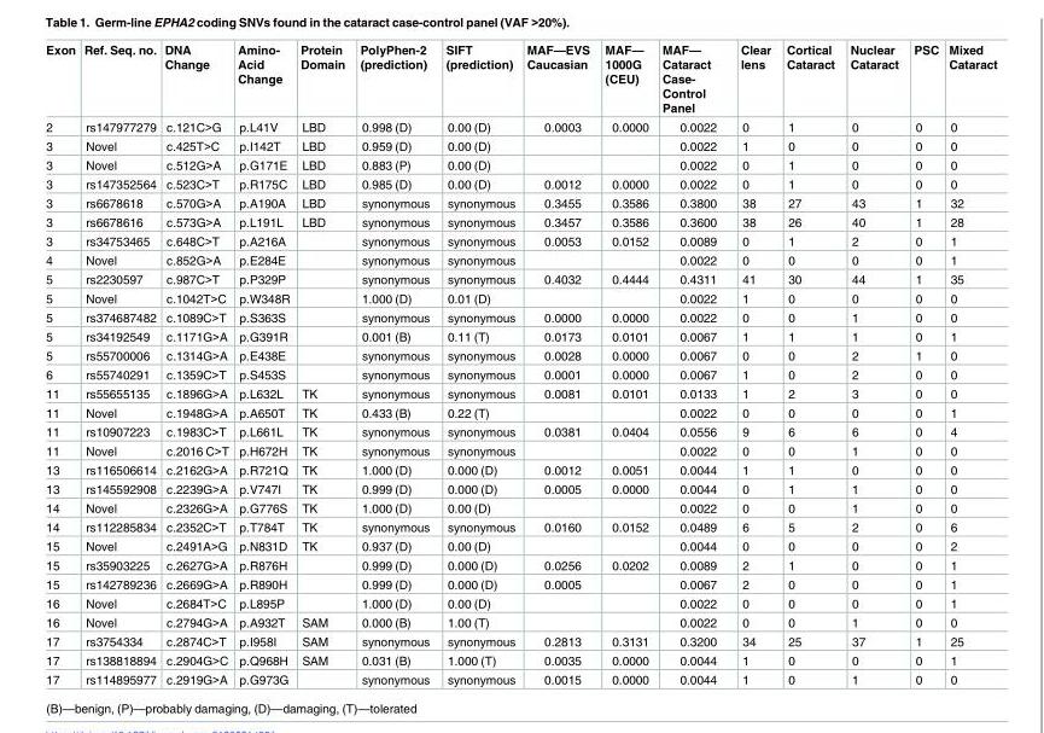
<table><thead><tr><td>Exon</td><td>Ref. Seq. no.</td><td>DNA Change</td><td>Amino- Acid Change</td><td>Protein Domain</td><td>PolyPhen-2 (prediction)</td><td>SIFT (prediction)</td><td>MAF—EVS Caucasian</td><td>MAF— 1000G (CEU)</td><td>MAF— Cataract Case- Control Panel</td><td>Clear lens</td><td>Cortical Cataract</td><td>Nuclear Cataract</td><td>PSC</td><td>Mixed Cataract</td></tr></thead><tbody><tr><td>2</td><td>rs147977279</td><td>c.121C&gt;G</td><td>p.L41V</td><td>LBD</td><td>0.998 (D)</td><td>0.00 (D)</td><td>0.0003</td><td>0.0000</td><td>0.0022</td><td>0</td><td>1</td><td>0</td><td>0</td><td>0</td></tr><tr><td>3</td><td>Novel</td><td>c.425T&gt;C</td><td>p.I142T</td><td>LBD</td><td>0.959 (D)</td><td>0.00 (D)</td><td></td><td></td><td>0.0022</td><td>1</td><td>0</td><td>0</td><td>0</td><td>0</td></tr><tr><td>3</td><td>Novel</td><td>c.512G&gt;A</td><td>p.G171E</td><td>LBD</td><td>0.883 (P)</td><td>0.00 (D)</td><td></td><td></td><td>0.0022</td><td>0</td><td>1</td><td>0</td><td>0</td><td>0</td></tr><tr><td>3</td><td>rs147352564</td><td>c.523C&gt;T</td><td>p.R175C</td><td>LBD</td><td>0.985 (D)</td><td>0.00 (D)</td><td>0.0012</td><td>0.0000</td><td>0.0022</td><td>0</td><td>1</td><td>0</td><td>0</td><td>0</td></tr><tr><td>3</td><td>rs6678618</td><td>c.570G&gt;A</td><td>p.A190A</td><td>LBD</td><td>synonymous</td><td>synonymous</td><td>0.3455</td><td>0.3586</td><td>0.3800</td><td>38</td><td>27</td><td>43</td><td>1</td><td>32</td></tr><tr><td>3</td><td>rs6678616</td><td>c.573G&gt;A</td><td>p.L191L</td><td>LBD</td><td>synonymous</td><td>synonymous</td><td>0.3457</td><td>0.3586</td><td>0.3600</td><td>38</td><td>26</td><td>40</td><td>1</td><td>28</td></tr><tr><td>3</td><td>rs34753465</td><td>c.648C&gt;T</td><td>p.A216A</td><td></td><td>synonymous</td><td>synonymous</td><td>0.0053</td><td>0.0152</td><td>0.0089</td><td>0</td><td>1</td><td>2</td><td>0</td><td>1</td></tr><tr><td>4</td><td>Novel</td><td>c.852G&gt;A</td><td>p.E284E</td><td></td><td>synonymous</td><td>synonymous</td><td></td><td></td><td>0.0022</td><td>0</td><td>0</td><td>0</td><td>0</td><td>1</td></tr><tr><td>5</td><td>rs2230597</td><td>c.987C&gt;T</td><td>p.P329P</td><td></td><td>synonymous</td><td>synonymous</td><td>0.4032</td><td>0.4444</td><td>0.4311</td><td>41</td><td>30</td><td>44</td><td>1</td><td>35</td></tr><tr><td>5</td><td>Novel</td><td>c.1042T&gt;C</td><td>p.W348R</td><td></td><td>1.000 (D)</td><td>0.01 (D)</td><td></td><td></td><td>0.0022</td><td>1</td><td>0</td><td>0</td><td>0</td><td>0</td></tr><tr><td>5</td><td>rs374687482</td><td>c.1089C&gt;T</td><td>p.S363S</td><td></td><td>synonymous</td><td>synonymous</td><td>0.0000</td><td>0.0000</td><td>0.0022</td><td>0</td><td>0</td><td>1</td><td>0</td><td>0</td></tr><tr><td>5</td><td>rs34192549</td><td>c.1171G&gt;A</td><td>p.G391R</td><td></td><td>0.001 (B)</td><td>0.11 (T)</td><td>0.0173</td><td>0.0101</td><td>0.0067</td><td>1</td><td>1</td><td>1</td><td>0</td><td>1</td></tr><tr><td>5</td><td>rs55700006</td><td>c.1314G&gt;A</td><td>p.E438E</td><td></td><td>synonymous</td><td>synonymous</td><td>0.0028</td><td>0.0000</td><td>0.0067</td><td>0</td><td>0</td><td>2</td><td>1</td><td>0</td></tr><tr><td>6</td><td>rs55740291</td><td>c.1359C&gt;T</td><td>p.S453S</td><td></td><td>synonymous</td><td>synonymous</td><td>0.0001</td><td>0.0000</td><td>0.0067</td><td>1</td><td>0</td><td>2</td><td>0</td><td>0</td></tr><tr><td>11</td><td>rs55655135</td><td>c.1896G&gt;A</td><td>p.L632L</td><td>TK</td><td>synonymous</td><td>synonymous</td><td>0.0081</td><td>0.0101</td><td>0.0133</td><td>1</td><td>2</td><td>3</td><td>0</td><td>0</td></tr><tr><td>11</td><td>Novel</td><td>c.1948G&gt;A</td><td>p.A650T</td><td>TK</td><td>0.433 (B)</td><td>0.22 (T)</td><td></td><td></td><td>0.0022</td><td>0</td><td>0</td><td>0</td><td>0</td><td>1</td></tr><tr><td>11</td><td>rs10907223</td><td>c.1983C&gt;T</td><td>p.L661L</td><td>TK</td><td>synonymous</td><td>synonymous</td><td>0.0381</td><td>0.0404</td><td>0.0556</td><td>9</td><td>6</td><td>6</td><td>0</td><td>4</td></tr><tr><td>11</td><td>Novel</td><td>c.2016 C&gt;T</td><td>p.H672H</td><td>TK</td><td>synonymous</td><td>synonymous</td><td></td><td></td><td>0.0022</td><td>0</td><td>0</td><td>1</td><td>0</td><td>0</td></tr><tr><td>13</td><td>rs116506614</td><td>c.2162G&gt;A</td><td>p.R721Q</td><td>TK</td><td>1.000 (D)</td><td>0.000 (D)</td><td>0.0012</td><td>0.0051</td><td>0.0044</td><td>1</td><td>1</td><td>0</td><td>0</td><td>0</td></tr><tr><td>13</td><td>rs145592908</td><td>c.2239G&gt;A</td><td>p.V747I</td><td>TK</td><td>0.999 (D)</td><td>0.000 (D)</td><td>0.0005</td><td>0.0000</td><td>0.0044</td><td>0</td><td>1</td><td>1</td><td>0</td><td>0</td></tr><tr><td>14</td><td>Novel</td><td>c.2326G&gt;A</td><td>p.G776S</td><td>TK</td><td>1.000 (D)</td><td>0.00 (D)</td><td></td><td></td><td>0.0022</td><td>0</td><td>0</td><td>1</td><td>0</td><td>0</td></tr><tr><td>14</td><td>rs112285834</td><td>c.2352C&gt;T</td><td>p.T784T</td><td>TK</td><td>synonymous</td><td>synonymous</td><td>0.0160</td><td>0.0152</td><td>0.0489</td><td>6</td><td>5</td><td>2</td><td>0</td><td>6</td></tr><tr><td>15</td><td>Novel</td><td>c.2491A&gt;G</td><td>p.N831D</td><td>TK</td><td>0.937 (D)</td><td>0.00 (D)</td><td></td><td></td><td>0.0044</td><td>0</td><td>0</td><td>0</td><td>0</td><td>2</td></tr><tr><td>15</td><td>rs35903225</td><td>c.2627G&gt;A</td><td>p.R876H</td><td></td><td>0.999 (D)</td><td>0.000 (D)</td><td>0.0256</td><td>0.0202</td><td>0.0089</td><td>2</td><td>1</td><td>0</td><td>0</td><td>1</td></tr><tr><td>15</td><td>rs142789236</td><td>c.2669G&gt;A</td><td>p.R890H</td><td></td><td>0.999 (D)</td><td>0.000 (D)</td><td>0.0005</td><td></td><td>0.0067</td><td>2</td><td>0</td><td>0</td><td>0</td><td>1</td></tr><tr><td>16</td><td>Novel</td><td>c.2684T&gt;C</td><td>p.L895P</td><td></td><td>1.000 (D)</td><td>0.00 (D)</td><td></td><td></td><td>0.0022</td><td>0</td><td>0</td><td>0</td><td>0</td><td>1</td></tr><tr><td>16</td><td>Novel</td><td>c.2794G&gt;A</td><td>p.A932T</td><td>SAM</td><td>0.000 (B)</td><td>1.00 (T)</td><td></td><td></td><td>0.0022</td><td>0</td><td>0</td><td>1</td><td>0</td><td>0</td></tr><tr><td>17</td><td>rs3754334</td><td>c.2874C&gt;T</td><td>p.I958I</td><td>SAM</td><td>synonymous</td><td>synonymous</td><td>0.2813</td><td>0.3131</td><td>0.3200</td><td>34</td><td>25</td><td>37</td><td>1</td><td>25</td></tr><tr><td>17</td><td>rs138818894</td><td>c.2904G&gt;C</td><td>p.Q968H</td><td>SAM</td><td>0.031 (B)</td><td>1.000 (T)</td><td>0.0035</td><td>0.0000</td><td>0.0044</td><td>1</td><td>0</td><td>0</td><td>0</td><td>1</td></tr><tr><td>17</td><td>rs114895977</td><td>c.2919G&gt;A</td><td>p.G973G</td><td></td><td>synonymous</td><td>synonymous</td><td>0.0015</td><td>0.0000</td><td>0.0044</td><td>1</td><td>0</td><td>1</td><td>0</td><td>0</td></tr></tbody></table>